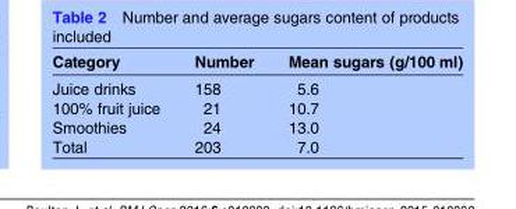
<table><thead><tr><td>Category</td><td>Number</td><td>Mean sugars (g/100 ml)</td></tr></thead><tbody><tr><td>Juice drinks</td><td>158</td><td>5.6</td></tr><tr><td>100% fruit juice</td><td>21</td><td>10.7</td></tr><tr><td>Smoothies</td><td>24</td><td>13.0</td></tr><tr><td>Total</td><td>203</td><td>7.0</td></tr></tbody></table>